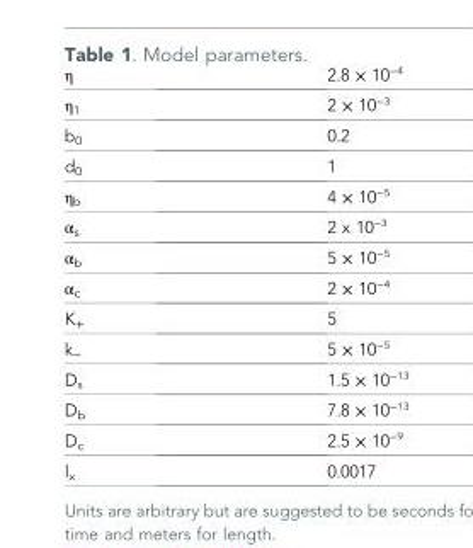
<table><tbody><tr><td>η</td><td>2.8 × 10<sup>−4</sup></td></tr><tr><td>η<sub>1</sub></td><td>2 × 10<sup>−3</sup></td></tr><tr><td>b<sub>0</sub></td><td>0.2</td></tr><tr><td>d<sub>0</sub></td><td>1</td></tr><tr><td>η<sub>b</sub></td><td>4 × 10<sup>−5</sup></td></tr><tr><td>α<sub>s</sub></td><td>2 x 10<sup>−3</sup></td></tr><tr><td>α<sub>b</sub></td><td>5 × 10<sup>−5</sup></td></tr><tr><td>α<sub>c</sub></td><td>2 × 10<sup>−4</sup></td></tr><tr><td>K<sub>+</sub></td><td>5</td></tr><tr><td>k<sub>−</sub></td><td>5 × 10<sup>−5</sup></td></tr><tr><td>D<sub>s</sub></td><td>1.5 × 10<sup>−13</sup></td></tr><tr><td>D<sub>b</sub></td><td>7.8 × 10<sup>−13</sup></td></tr><tr><td>D<sub>c</sub></td><td>2.5 × 10<sup>−9</sup></td></tr><tr><td>l<sub>x</sub></td><td>0.0017</td></tr></tbody></table>